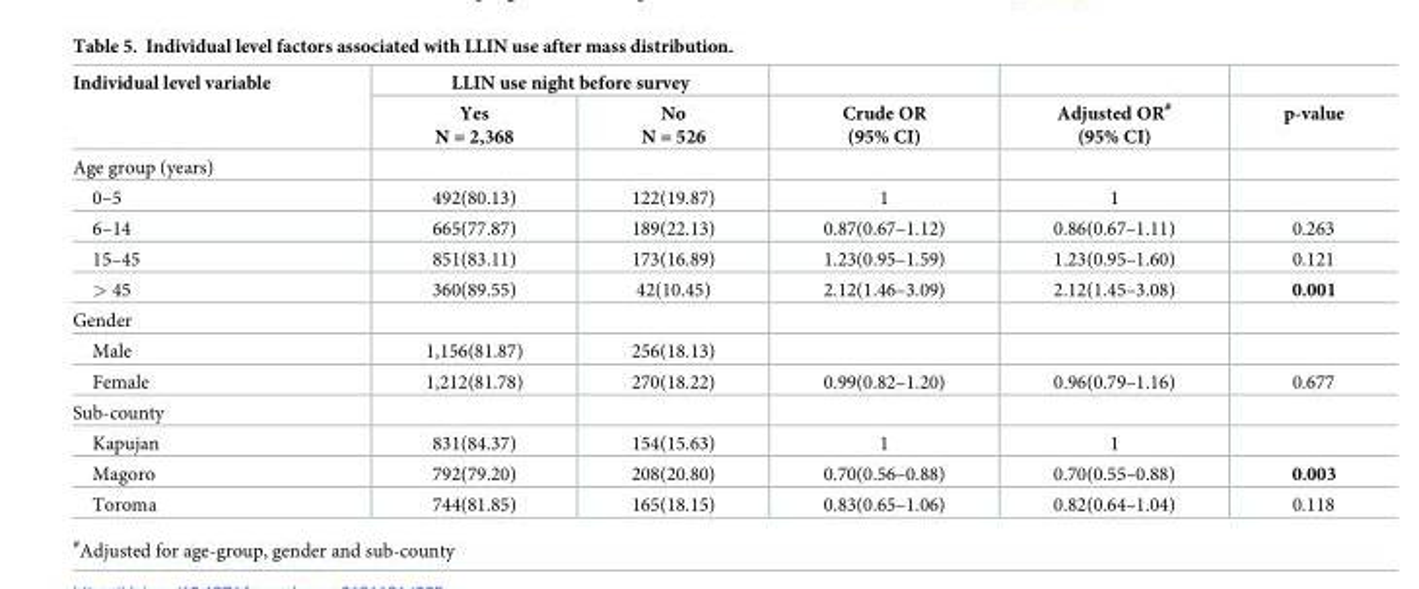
<table><thead><tr><td rowspan="2">Individual level variable</td><td colspan="2">LLIN use night before survey</td><td rowspan="2">Crude OR (95% CI)</td><td rowspan="2">Adjusted OR<sup>#</sup> (95% CI)</td><td rowspan="2">p-value</td></tr><tr><td>Yes N = 2,368</td><td>No N = 526</td></tr></thead><tbody><tr><td colspan="6">Age group (years)</td></tr><tr><td>0–5</td><td>492(80.13)</td><td>122(19.87)</td><td>1</td><td>1</td><td></td></tr><tr><td>6–14</td><td>665(77.87)</td><td>189(22.13)</td><td>0.87(0.67–1.12)</td><td>0.86(0.67–1.11)</td><td>0.263</td></tr><tr><td>15–45</td><td>851(83.11)</td><td>173(16.89)</td><td>1.23(0.95–1.59)</td><td>1.23(0.95–1.60)</td><td>0.121</td></tr><tr><td>&gt; 45</td><td>360(89.55)</td><td>42(10.45)</td><td>2.12(1.46–3.09)</td><td>2.12(1.45–3.08)</td><td>0.001</td></tr><tr><td colspan="6">Gender</td></tr><tr><td>Male</td><td>1,156(81.87)</td><td>256(18.13)</td><td></td><td></td><td></td></tr><tr><td>Female</td><td>1,212(81.78)</td><td>270(18.22)</td><td>0.99(0.82–1.20)</td><td>0.96(0.79–1.16)</td><td>0.677</td></tr><tr><td colspan="6">Sub-county</td></tr><tr><td>Kapujan</td><td>831(84.37)</td><td>154(15.63)</td><td>1</td><td>1</td><td></td></tr><tr><td>Magoro</td><td>792(79.20)</td><td>208(20.80)</td><td>0.70(0.56–0.88)</td><td>0.70(0.55–0.88)</td><td>0.003</td></tr><tr><td>Toroma</td><td>744(81.85)</td><td>165(18.15)</td><td>0.83(0.65–1.06)</td><td>0.82(0.64–1.04)</td><td>0.118</td></tr></tbody></table>